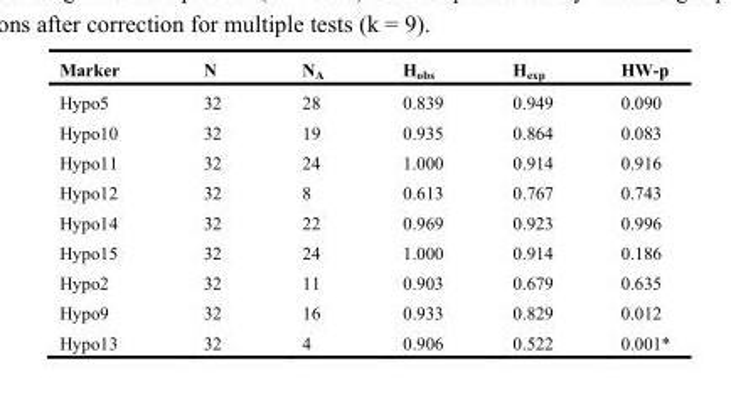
<table><thead><tr><td>Marker</td><td>N</td><td>N<sub>A</sub></td><td>H<sub>obs</sub></td><td>H<sub>exp</sub></td><td>HW-p</td></tr></thead><tbody><tr><td>Hypo5</td><td>32</td><td>28</td><td>0.839</td><td>0.949</td><td>0.090</td></tr><tr><td>Hypo10</td><td>32</td><td>19</td><td>0.935</td><td>0.864</td><td>0.083</td></tr><tr><td>Hypo11</td><td>32</td><td>24</td><td>1.000</td><td>0.914</td><td>0.916</td></tr><tr><td>Hypo12</td><td>32</td><td>8</td><td>0.613</td><td>0.767</td><td>0.743</td></tr><tr><td>Hypo14</td><td>32</td><td>22</td><td>0.969</td><td>0.923</td><td>0.996</td></tr><tr><td>Hypo15</td><td>32</td><td>24</td><td>1.000</td><td>0.914</td><td>0.186</td></tr><tr><td>Hypo2</td><td>32</td><td>11</td><td>0.903</td><td>0.679</td><td>0.635</td></tr><tr><td>Hypo9</td><td>32</td><td>16</td><td>0.933</td><td>0.829</td><td>0.012</td></tr><tr><td>Hypo13</td><td>32</td><td>4</td><td>0.906</td><td>0.522</td><td>0.001*</td></tr></tbody></table>